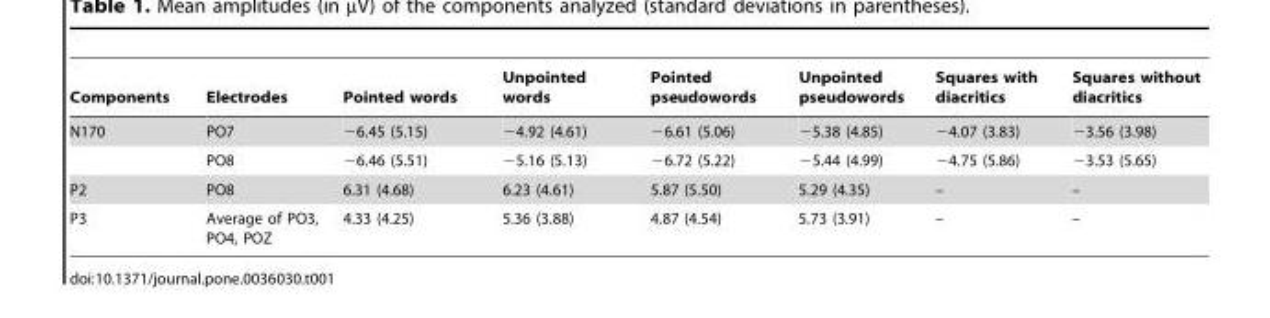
<table><thead><tr><td>Components</td><td>Electrodes</td><td>Pointed words</td><td>Unpointed words</td><td>Pointed pseudowords</td><td>Unpointed pseudowords</td><td>Squares with diacritics</td><td>Squares without diacritics</td></tr></thead><tbody><tr><td rowspan="2">N170</td><td>PO7</td><td>−6.45 (5.15)</td><td>−4.92 (4.61)</td><td>−6.61 (5.06)</td><td>−5.38 (4.85)</td><td>−4.07 (3.83)</td><td>−3.56 (3.98)</td></tr><tr><td>PO8</td><td>−6.46 (5.51)</td><td>−5.16 (5.13)</td><td>−6.72 (5.22)</td><td>−5.44 (4.99)</td><td>−4.75 (5.86)</td><td>−3.53 (5.65)</td></tr><tr><td>P2</td><td>PO8</td><td>6.31 (4.68)</td><td>6.23 (4.61)</td><td>5.87 (5.50)</td><td>5.29 (4.35)</td><td>–</td><td>–</td></tr><tr><td>P3</td><td>Average of PO3, PO4, POZ</td><td>4.33 (4.25)</td><td>5.36 (3.88)</td><td>4.87 (4.54)</td><td>5.73 (3.91)</td><td>–</td><td>–</td></tr></tbody></table>